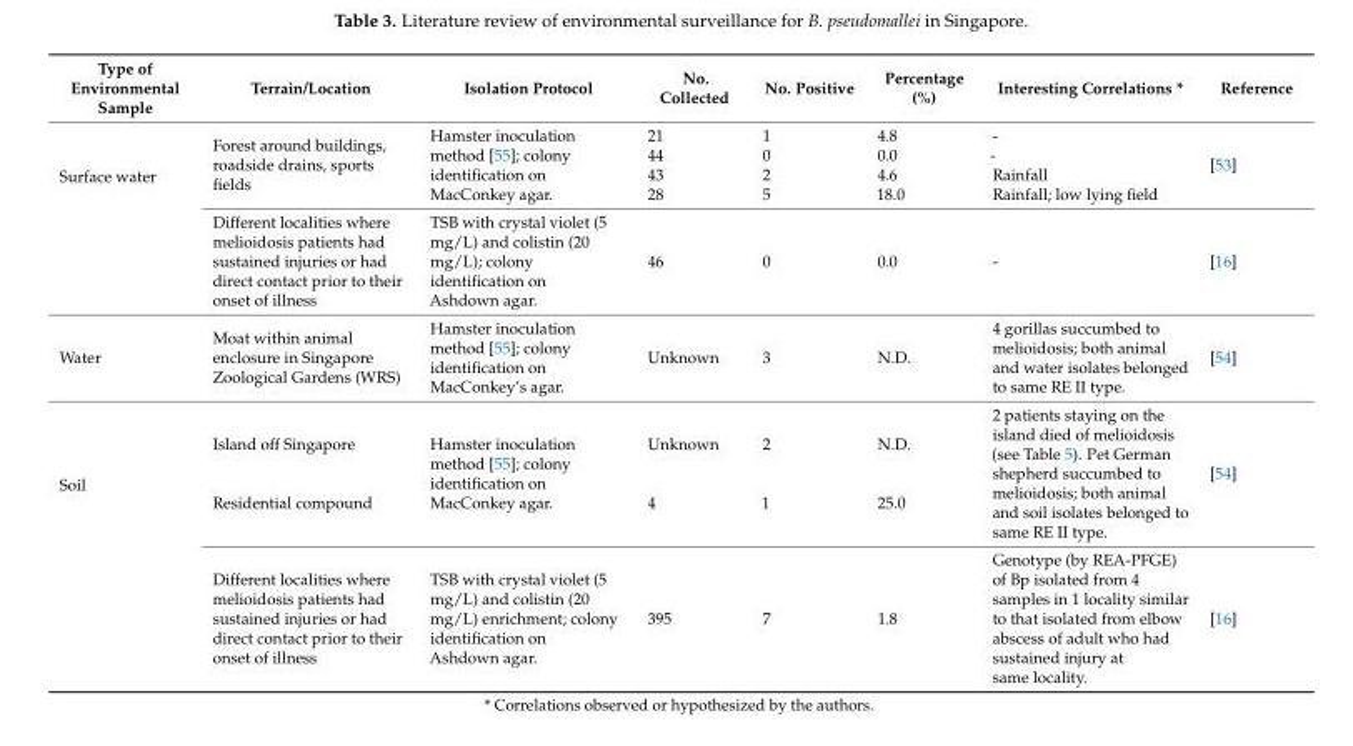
<table><thead><tr><td>Type of Environmental Sample</td><td>Terrain/Location</td><td>Isolation Protocol</td><td>No. Collected</td><td>No. Positive</td><td>Percentage (%)</td><td>Interesting Correlations *</td><td>Reference</td></tr></thead><tbody><tr><td rowspan="2">Surface water</td><td>Forest around buildings, roadside drains, sports fields</td><td>Hamster inoculation method [55]; colony identification on MacConkey agar.</td><td>21 44 43 28</td><td>1 0 2 5</td><td>4.8 0.0 4.6 18.0</td><td>- - Rainfall Rainfall; low lying field</td><td>[53]</td></tr><tr><td>Different localities where melioidosis patients had sustained injuries or had direct contact prior to their onset of illness</td><td>TSB with crystal violet (5 mg/L) and colistin (20 mg/L); colony identification on Ashdown agar.</td><td>46</td><td>0</td><td>0.0</td><td>-</td><td>[16]</td></tr><tr><td>Water</td><td>Moat within animal enclosure in Singapore Zoological Gardens (WRS)</td><td>Hamster inoculation method [55]; colony identification on MacConkey’s agar.</td><td>Unknown</td><td>3</td><td>N.D.</td><td>4 gorillas succumbed to melioidosis; both animal and water isolates belonged to same RE II type.</td><td>[54]</td></tr><tr><td rowspan="2">Soil</td><td>Island off Singapore Residential compound</td><td>Hamster inoculation method [55]; colony identification on MacConkey agar.</td><td>Unknown 4</td><td>2 1</td><td>N.D. 25.0</td><td>2 patients staying on the island died of melioidosis (see Table 5). Pet German shepherd succumbed to melioidosis; both animal and soil isolates belonged to same RE II type.</td><td>[54]</td></tr><tr><td>Different localities where melioidosis patients had sustained injuries or had direct contact prior to their onset of illness</td><td>TSB with crystal violet (5 mg/L) and colistin (20 mg/L) enrichment; colony identification on Ashdown agar.</td><td>395</td><td>7</td><td>1.8</td><td>Genotype (by REA-PFGE) of Bp isolated from 4 samples in 1 locality similar to that isolated from elbow abscess of adult who had sustained injury at same locality.</td><td>[16]</td></tr></tbody></table>